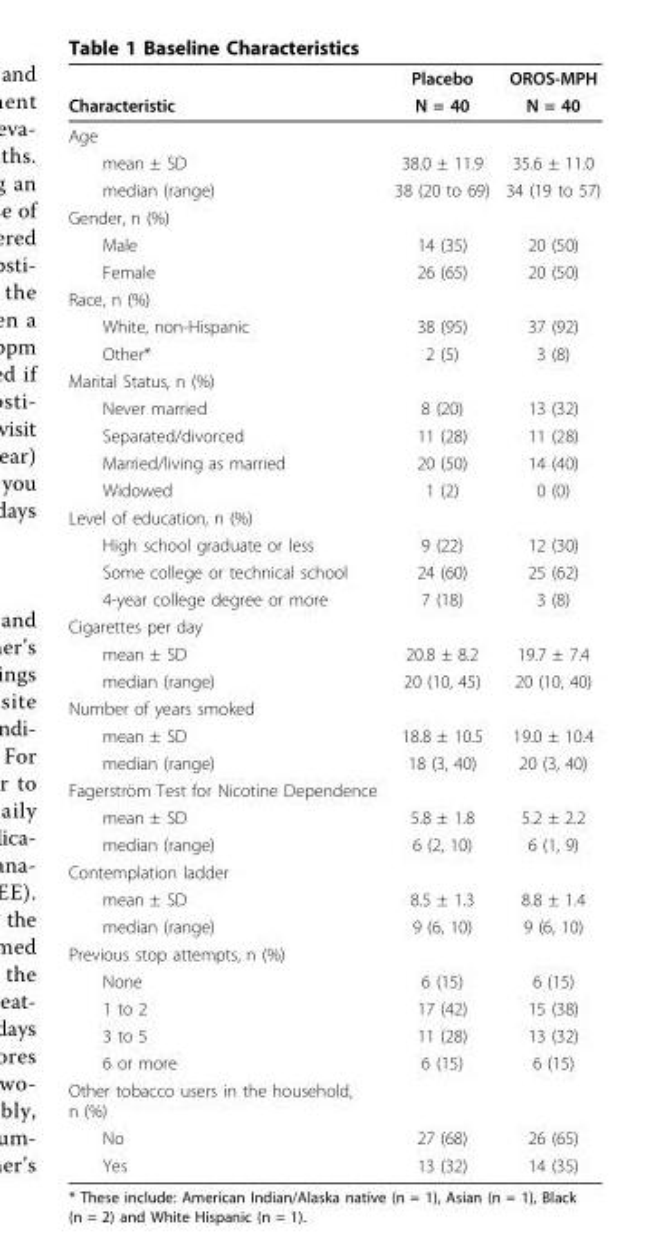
<table><thead><tr><td rowspan="2">Characteristic</td><td rowspan="2">Placebo N = 40</td><td rowspan="2">OROS-MPH N = 40</td></tr><tr></tr></thead><tbody><tr><td colspan="3">Age</td></tr><tr><td>mean ± SD</td><td>38.0 ± 11.9</td><td>35.6 ± 11.0</td></tr><tr><td>median (range)</td><td>38 (20 to 69)</td><td>34 (19 to 57)</td></tr><tr><td colspan="3">Gender, n (%)</td></tr><tr><td>Male</td><td>14 (35)</td><td>20 (50)</td></tr><tr><td>Female</td><td>26 (65)</td><td>20 (50)</td></tr><tr><td colspan="3">Race, n (%)</td></tr><tr><td>White, non-Hispanic</td><td>38 (95)</td><td>37 (92)</td></tr><tr><td>Other*</td><td>2 (5)</td><td>3 (8)</td></tr><tr><td colspan="3">Marital Status, n (%)</td></tr><tr><td>Never married</td><td>8 (20)</td><td>13 (32)</td></tr><tr><td>Separated/divorced</td><td>11 (28)</td><td>11 (28)</td></tr><tr><td>Married/living as married</td><td>20 (50)</td><td>14 (40)</td></tr><tr><td>Widowed</td><td>1 (2)</td><td>0 (0)</td></tr><tr><td colspan="3">Level of education, n (%)</td></tr><tr><td>High school graduate or less</td><td>9 (22)</td><td>12 (30)</td></tr><tr><td>Some college or technical school</td><td>24 (60)</td><td>25 (62)</td></tr><tr><td>4-year college degree or more</td><td>7 (18)</td><td>3 (8)</td></tr><tr><td colspan="3">Cigarettes per day</td></tr><tr><td>mean ± SD</td><td>20.8 ± 8.2</td><td>19.7 ± 7.4</td></tr><tr><td>median (range)</td><td>20 (10, 45)</td><td>20 (10, 40)</td></tr><tr><td colspan="3">Number of years smoked</td></tr><tr><td>mean ± SD</td><td>18.8 ± 10.5</td><td>19.0 ± 10.4</td></tr><tr><td>median (range)</td><td>18 (3, 40)</td><td>20 (3, 40)</td></tr><tr><td colspan="3">Fagerström Test for Nicotine Dependence</td></tr><tr><td>mean ± SD</td><td>5.8 ± 1.8</td><td>5.2 ± 2.2</td></tr><tr><td>median (range)</td><td>6 (2, 10)</td><td>6 (1, 9)</td></tr><tr><td colspan="3">Contemplation ladder</td></tr><tr><td>mean ± SD</td><td>8.5 ± 1.3</td><td>8.8 ± 1.4</td></tr><tr><td>median (range)</td><td>9 (6, 10)</td><td>9 (6, 10)</td></tr><tr><td colspan="3">Previous stop attempts, n (%)</td></tr><tr><td>None</td><td>6 (15)</td><td>6 (15)</td></tr><tr><td>1 to 2</td><td>17 (42)</td><td>15 (38)</td></tr><tr><td>3 to 5</td><td>11 (28)</td><td>13 (32)</td></tr><tr><td>6 or more</td><td>6 (15)</td><td>6 (15)</td></tr><tr><td colspan="3">Other tobacco users in the household, n (%)</td></tr><tr><td>No</td><td>27 (68)</td><td>26 (65)</td></tr><tr><td>Yes</td><td>13 (32)</td><td>14 (35)</td></tr></tbody></table>